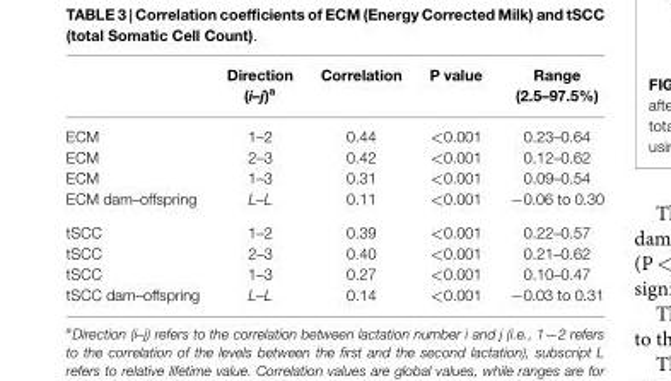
<table><thead><tr><td></td><td>Direction (i–j)<sup>a</sup></td><td>Correlation</td><td>P value</td><td>Range (2.5–97.5%)</td></tr></thead><tbody><tr><td>ECM</td><td>1–2</td><td>0.44</td><td>&lt;0.001</td><td>0.23–0.64</td></tr><tr><td>ECM</td><td>2–3</td><td>0.42</td><td>&lt;0.001</td><td>0.12–0.62</td></tr><tr><td>ECM</td><td>1–3</td><td>0.31</td><td>&lt;0.001</td><td>0.09–0.54</td></tr><tr><td>ECM dam–offspring</td><td>L–L</td><td>0.11</td><td>&lt;0.001</td><td>−0.06 to 0.30</td></tr><tr><td>tSCC</td><td>1–2</td><td>0.39</td><td>&lt;0.001</td><td>0.22–0.57</td></tr><tr><td>tSCC</td><td>2–3</td><td>0.40</td><td>&lt;0.001</td><td>0.21–0.62</td></tr><tr><td>tSCC</td><td>1–3</td><td>0.27</td><td>&lt;0.001</td><td>0.10–0.47</td></tr><tr><td>tSCC dam–offspring</td><td>L–L</td><td>0.14</td><td>&lt;0.001</td><td>−0.03 to 0.31</td></tr></tbody></table>